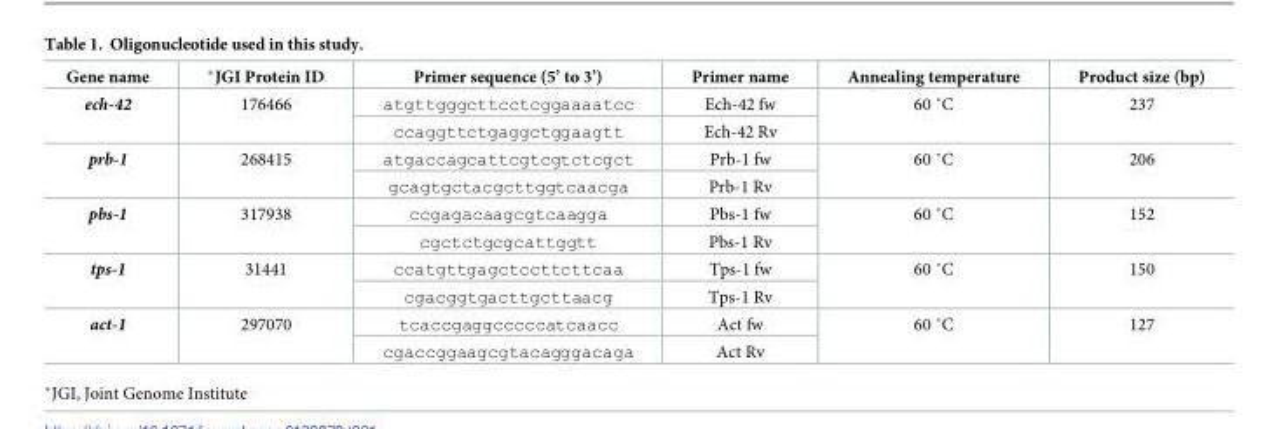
<table><thead><tr><td>Gene name</td><td>*JGI Protein ID</td><td>Primer sequence (5’ to 3’)</td><td>Primer name</td><td>Annealing temperature</td><td>Product size (bp)</td></tr></thead><tbody><tr><td rowspan="2">ech-42</td><td rowspan="2">176466</td><td>atgttgggcttcctcggaaaatcc</td><td>Ech-42 fw</td><td rowspan="2">60 ˚C</td><td rowspan="2">237</td></tr><tr><td>ccaggttctgaggctggaagtt</td><td>Ech-42 Rv</td></tr><tr><td rowspan="2">prb-1</td><td rowspan="2">268415</td><td>atgaccagcattcgtcgtctcgct</td><td>Prb-1 fw</td><td rowspan="2">60 ˚C</td><td rowspan="2">206</td></tr><tr><td>gcagtgctacgcttggtcaacga</td><td>Prb-1 Rv</td></tr><tr><td rowspan="2">pbs-1</td><td rowspan="2">317938</td><td>ccgagacaagcgtcaagga</td><td>Pbs-1 fw</td><td rowspan="2">60 ˚C</td><td rowspan="2">152</td></tr><tr><td>cgctctgcgcattggtt</td><td>Pbs-1 Rv</td></tr><tr><td rowspan="2">tps-1</td><td rowspan="2">31441</td><td>ccatgttgagctccttcttcaa</td><td>Tps-1 fw</td><td rowspan="2">60 ˚C</td><td rowspan="2">150</td></tr><tr><td>cgacggtgacttgcttaacg</td><td>Tps-1 Rv</td></tr><tr><td rowspan="2">act-1</td><td rowspan="2">297070</td><td>tcaccgaggcccccatcaacc</td><td>Act fw</td><td rowspan="2">60 ˚C</td><td rowspan="2">127</td></tr><tr><td>cgaccggaagcgtacagggacaga</td><td>Act Rv</td></tr></tbody></table>